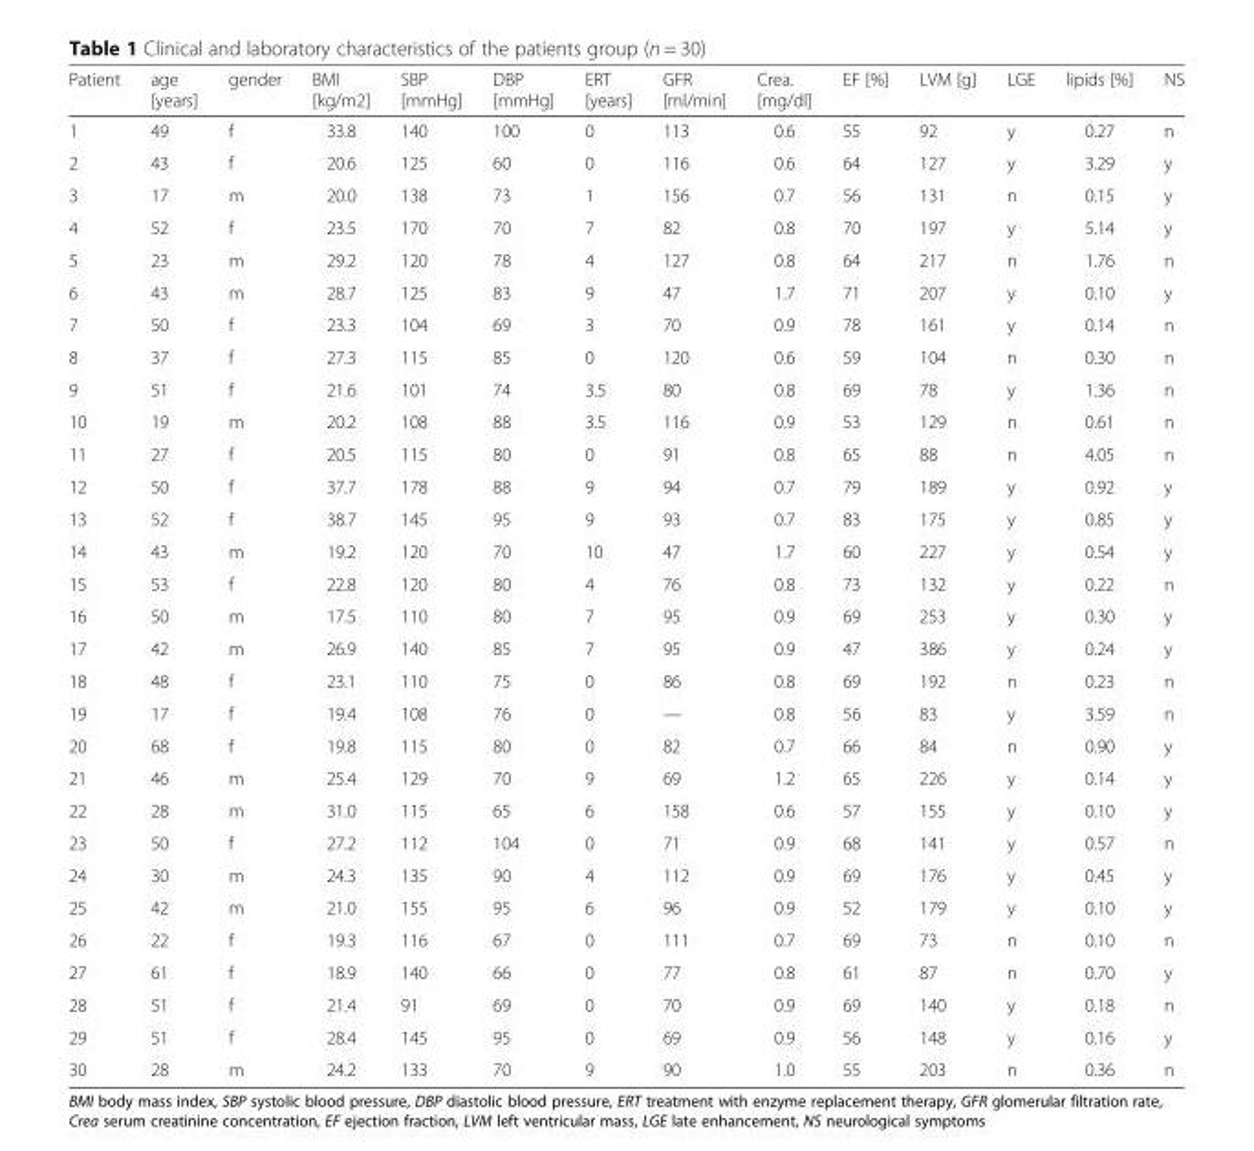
<table><thead><tr><td>Patient</td><td>age [years]</td><td>gender</td><td>BMI [kg/m2]</td><td>SBP [mmHg]</td><td>DBP [mmHg]</td><td>ERT [years]</td><td>GFR [ml/min]</td><td>Crea. [mg/dl]</td><td>EF [%]</td><td>LVM [g]</td><td>LGE</td><td>lipids [%]</td><td>NS</td></tr></thead><tbody><tr><td>1</td><td>49</td><td>f</td><td>33.8</td><td>140</td><td>100</td><td>0</td><td>113</td><td>0.6</td><td>55</td><td>92</td><td>y</td><td>0.27</td><td>n</td></tr><tr><td>2</td><td>43</td><td>f</td><td>20.6</td><td>125</td><td>60</td><td>0</td><td>116</td><td>0.6</td><td>64</td><td>127</td><td>y</td><td>3.29</td><td>y</td></tr><tr><td>3</td><td>17</td><td>m</td><td>20.0</td><td>138</td><td>73</td><td>1</td><td>156</td><td>0.7</td><td>56</td><td>131</td><td>n</td><td>0.15</td><td>y</td></tr><tr><td>4</td><td>52</td><td>f</td><td>23.5</td><td>170</td><td>70</td><td>7</td><td>82</td><td>0.8</td><td>70</td><td>197</td><td>y</td><td>5.14</td><td>y</td></tr><tr><td>5</td><td>23</td><td>m</td><td>29.2</td><td>120</td><td>78</td><td>4</td><td>127</td><td>0.8</td><td>64</td><td>217</td><td>n</td><td>1.76</td><td>n</td></tr><tr><td>6</td><td>43</td><td>m</td><td>28.7</td><td>125</td><td>83</td><td>9</td><td>47</td><td>1.7</td><td>71</td><td>207</td><td>y</td><td>0.10</td><td>y</td></tr><tr><td>7</td><td>50</td><td>f</td><td>23.3</td><td>104</td><td>69</td><td>3</td><td>70</td><td>0.9</td><td>78</td><td>161</td><td>y</td><td>0.14</td><td>n</td></tr><tr><td>8</td><td>37</td><td>f</td><td>27.3</td><td>115</td><td>85</td><td>0</td><td>120</td><td>0.6</td><td>59</td><td>104</td><td>n</td><td>0.30</td><td>n</td></tr><tr><td>9</td><td>51</td><td>f</td><td>21.6</td><td>101</td><td>74</td><td>3.5</td><td>80</td><td>0.8</td><td>69</td><td>78</td><td>y</td><td>1.36</td><td>n</td></tr><tr><td>10</td><td>19</td><td>m</td><td>20.2</td><td>108</td><td>88</td><td>3.5</td><td>116</td><td>0.9</td><td>53</td><td>129</td><td>n</td><td>0.61</td><td>n</td></tr><tr><td>11</td><td>27</td><td>f</td><td>20.5</td><td>115</td><td>80</td><td>0</td><td>91</td><td>0.8</td><td>65</td><td>88</td><td>n</td><td>4.05</td><td>n</td></tr><tr><td>12</td><td>50</td><td>f</td><td>37.7</td><td>178</td><td>88</td><td>9</td><td>94</td><td>0.7</td><td>79</td><td>189</td><td>y</td><td>0.92</td><td>y</td></tr><tr><td>13</td><td>52</td><td>f</td><td>38.7</td><td>145</td><td>95</td><td>9</td><td>93</td><td>0.7</td><td>83</td><td>175</td><td>y</td><td>0.85</td><td>y</td></tr><tr><td>14</td><td>43</td><td>m</td><td>19.2</td><td>120</td><td>70</td><td>10</td><td>47</td><td>1.7</td><td>60</td><td>227</td><td>y</td><td>0.54</td><td>y</td></tr><tr><td>15</td><td>53</td><td>f</td><td>22.8</td><td>120</td><td>80</td><td>4</td><td>76</td><td>0.8</td><td>73</td><td>132</td><td>y</td><td>0.22</td><td>n</td></tr><tr><td>16</td><td>50</td><td>m</td><td>17.5</td><td>110</td><td>80</td><td>7</td><td>95</td><td>0.9</td><td>69</td><td>253</td><td>y</td><td>0.30</td><td>y</td></tr><tr><td>17</td><td>42</td><td>m</td><td>26.9</td><td>140</td><td>85</td><td>7</td><td>95</td><td>0.9</td><td>47</td><td>386</td><td>y</td><td>0.24</td><td>y</td></tr><tr><td>18</td><td>48</td><td>f</td><td>23.1</td><td>110</td><td>75</td><td>0</td><td>86</td><td>0.8</td><td>69</td><td>192</td><td>n</td><td>0.23</td><td>n</td></tr><tr><td>19</td><td>17</td><td>f</td><td>19.4</td><td>108</td><td>76</td><td>0</td><td>—</td><td>0.8</td><td>56</td><td>83</td><td>y</td><td>3.59</td><td>n</td></tr><tr><td>20</td><td>68</td><td>f</td><td>19.8</td><td>115</td><td>80</td><td>0</td><td>82</td><td>0.7</td><td>66</td><td>84</td><td>n</td><td>0.90</td><td>y</td></tr><tr><td>21</td><td>46</td><td>m</td><td>25.4</td><td>129</td><td>70</td><td>9</td><td>69</td><td>1.2</td><td>65</td><td>226</td><td>y</td><td>0.14</td><td>y</td></tr><tr><td>22</td><td>28</td><td>m</td><td>31.0</td><td>115</td><td>65</td><td>6</td><td>158</td><td>0.6</td><td>57</td><td>155</td><td>y</td><td>0.10</td><td>y</td></tr><tr><td>23</td><td>50</td><td>f</td><td>27.2</td><td>112</td><td>104</td><td>0</td><td>71</td><td>0.9</td><td>68</td><td>141</td><td>y</td><td>0.57</td><td>n</td></tr><tr><td>24</td><td>30</td><td>m</td><td>24.3</td><td>135</td><td>90</td><td>4</td><td>112</td><td>0.9</td><td>69</td><td>176</td><td>y</td><td>0.45</td><td>y</td></tr><tr><td>25</td><td>42</td><td>m</td><td>21.0</td><td>155</td><td>95</td><td>6</td><td>96</td><td>0.9</td><td>52</td><td>179</td><td>y</td><td>0.10</td><td>y</td></tr><tr><td>26</td><td>22</td><td>f</td><td>19.3</td><td>116</td><td>67</td><td>0</td><td>111</td><td>0.7</td><td>69</td><td>73</td><td>n</td><td>0.10</td><td>n</td></tr><tr><td>27</td><td>61</td><td>f</td><td>18.9</td><td>140</td><td>66</td><td>0</td><td>77</td><td>0.8</td><td>61</td><td>87</td><td>n</td><td>0.70</td><td>y</td></tr><tr><td>28</td><td>51</td><td>f</td><td>21.4</td><td>91</td><td>69</td><td>0</td><td>70</td><td>0.9</td><td>69</td><td>140</td><td>y</td><td>0.18</td><td>n</td></tr><tr><td>29</td><td>51</td><td>f</td><td>28.4</td><td>145</td><td>95</td><td>0</td><td>69</td><td>0.9</td><td>56</td><td>148</td><td>y</td><td>0.16</td><td>y</td></tr><tr><td>30</td><td>28</td><td>m</td><td>24.2</td><td>133</td><td>70</td><td>9</td><td>90</td><td>1.0</td><td>55</td><td>203</td><td>n</td><td>0.36</td><td>n</td></tr></tbody></table>